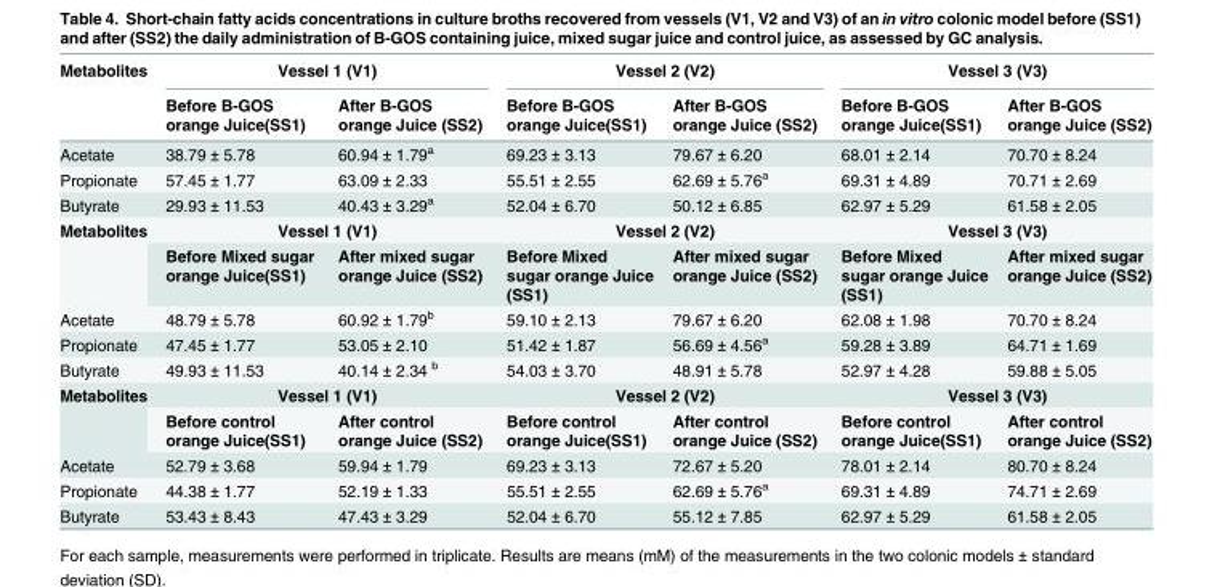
<table><thead><tr><td rowspan="2">Metabolites</td><td colspan="2">Vessel 1 (V1)</td><td colspan="2">Vessel 2 (V2)</td><td colspan="2">Vessel 3 (V3)</td></tr><tr><td>Before B-GOS orange Juice(SS1)</td><td>After B-GOS orange Juice (SS2)</td><td>Before B-GOS orange Juice(SS1)</td><td>After B-GOS orange Juice (SS2)</td><td>Before B-GOS orange Juice(SS1)</td><td>After B-GOS orange Juice (SS2)</td></tr></thead><tbody><tr><td>Acetate</td><td>38.79 ± 5.78</td><td>60.94 ± 1.79<sup>a</sup></td><td>69.23 ± 3.13</td><td>79.67 ± 6.20</td><td>68.01 ± 2.14</td><td>70.70 ± 8.24</td></tr><tr><td>Propionate</td><td>57.45 ± 1.77</td><td>63.09 ± 2.33</td><td>55.51 ± 2.55</td><td>62.69 ± 5.76<sup>a</sup></td><td>69.31 ± 4.89</td><td>70.71 ± 2.69</td></tr><tr><td>Butyrate</td><td>29.93 ± 11.53</td><td>40.43 ± 3.29<sup>a</sup></td><td>52.04 ± 6.70</td><td>50.12 ± 6.85</td><td>62.97 ± 5.29</td><td>61.58 ± 2.05</td></tr><tr><td rowspan="2">Metabolites</td><td colspan="2">Vessel 1 (V1)</td><td colspan="2">Vessel 2 (V2)</td><td colspan="2">Vessel 3 (V3)</td></tr><tr><td>Before Mixed sugar orange Juice(SS1)</td><td>After mixed sugar orange Juice (SS2)</td><td>Before Mixed sugar orange Juice (SS1)</td><td>After mixed sugar orange Juice (SS2)</td><td>Before Mixed sugar orange Juice (SS1)</td><td>After mixed sugar orange Juice (SS2)</td></tr><tr><td>Acetate</td><td>48.79 ± 5.78</td><td>60.92 ± 1.79<sup>b</sup></td><td>59.10 ± 2.13</td><td>79.67 ± 6.20</td><td>62.08 ± 1.98</td><td>70.70 ± 8.24</td></tr><tr><td>Propionate</td><td>47.45 ± 1.77</td><td>53.05 ± 2.10</td><td>51.42 ± 1.87</td><td>56.69 ± 4.56<sup>a</sup></td><td>59.28 ± 3.89</td><td>64.71 ± 1.69</td></tr><tr><td>Butyrate</td><td>49.93 ± 11.53</td><td>40.14 ± 2.34 <sup>b</sup></td><td>54.03 ± 3.70</td><td>48.91 ± 5.78</td><td>52.97 ± 4.28</td><td>59.88 ± 5.05</td></tr><tr><td rowspan="2">Metabolites</td><td colspan="2">Vessel 1 (V1)</td><td colspan="2">Vessel 2 (V2)</td><td colspan="2">Vessel 3 (V3)</td></tr><tr><td>Before control orange Juice(SS1)</td><td>After control orange Juice (SS2)</td><td>Before control orange Juice(SS1)</td><td>After control orange Juice (SS2)</td><td>Before control orange Juice(SS1)</td><td>After control orange Juice (SS2)</td></tr><tr><td>Acetate</td><td>52.79 ± 3.68</td><td>59.94 ± 1.79</td><td>69.23 ± 3.13</td><td>72.67 ± 5.20</td><td>78.01 ± 2.14</td><td>80.70 ± 8.24</td></tr><tr><td>Propionate</td><td>44.38 ± 1.77</td><td>52.19 ± 1.33</td><td>55.51 ± 2.55</td><td>62.69 ± 5.76<sup>a</sup></td><td>69.31 ± 4.89</td><td>74.71 ± 2.69</td></tr><tr><td>Butyrate</td><td>53.43 ± 8.43</td><td>47.43 ± 3.29</td><td>52.04 ± 6.70</td><td>55.12 ± 7.85</td><td>62.97 ± 5.29</td><td>61.58 ± 2.05</td></tr></tbody></table>